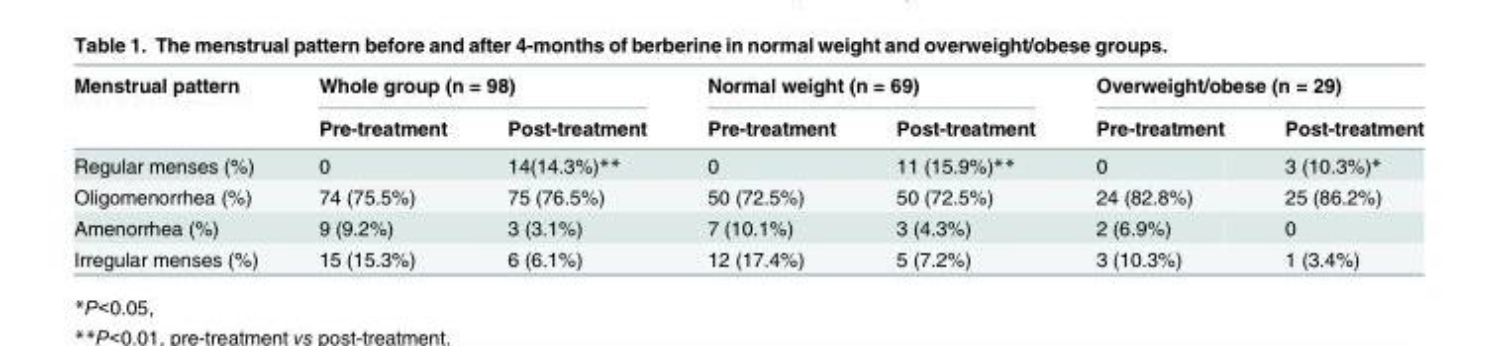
<table><thead><tr><td rowspan="2">Menstrual pattern</td><td colspan="2">Whole group (n = 98)</td><td colspan="2">Normal weight (n = 69)</td><td colspan="2">Overweight/obese (n = 29)</td></tr><tr><td>Pre-treatment</td><td>Post-treatment</td><td>Pre-treatment</td><td>Post-treatment</td><td>Pre-treatment</td><td>Post-treatment</td></tr></thead><tbody><tr><td>Regular menses (%)</td><td>0</td><td>14(14.3%)**</td><td>0</td><td>11 (15.9%)**</td><td>0</td><td>3 (10.3%)*</td></tr><tr><td>Oligomenorrhea (%)</td><td>74 (75.5%)</td><td>75 (76.5%)</td><td>50 (72.5%)</td><td>50 (72.5%)</td><td>24 (82.8%)</td><td>25 (86.2%)</td></tr><tr><td>Amenorrhea (%)</td><td>9 (9.2%)</td><td>3 (3.1%)</td><td>7 (10.1%)</td><td>3 (4.3%)</td><td>2 (6.9%)</td><td>0</td></tr><tr><td>Irregular menses (%)</td><td>15 (15.3%)</td><td>6 (6.1%)</td><td>12 (17.4%)</td><td>5 (7.2%)</td><td>3 (10.3%)</td><td>1 (3.4%)</td></tr></tbody></table>